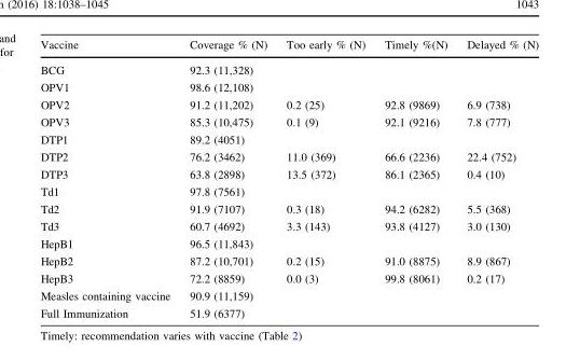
<table><thead><tr><td>Vaccine</td><td>Coverage % (N)</td><td>Too early % (N)</td><td>Timely %(N)</td><td>Delayed % (N)</td></tr></thead><tbody><tr><td>BCG</td><td>92.3 (11,328)</td><td></td><td></td><td></td></tr><tr><td>OPV1</td><td>98.6 (12,108)</td><td></td><td></td><td></td></tr><tr><td>OPV2</td><td>91.2 (11,202)</td><td>0.2 (25)</td><td>92.8 (9869)</td><td>6.9 (738)</td></tr><tr><td>OPV3</td><td>85.3 (10,475)</td><td>0.1 (9)</td><td>92.1 (9216)</td><td>7.8 (777)</td></tr><tr><td>DTP1</td><td>89.2 (4051)</td><td></td><td></td><td></td></tr><tr><td>DTP2</td><td>76.2 (3462)</td><td>11.0 (369)</td><td>66.6 (2236)</td><td>22.4 (752)</td></tr><tr><td>DTP3</td><td>63.8 (2898)</td><td>13.5 (372)</td><td>86.1 (2365)</td><td>0.4 (10)</td></tr><tr><td>Td1</td><td>97.8 (7561)</td><td></td><td></td><td></td></tr><tr><td>Td2</td><td>91.9 (7107)</td><td>0.3 (18)</td><td>94.2 (6282)</td><td>5.5 (368)</td></tr><tr><td>Td3</td><td>60.7 (4692)</td><td>3.3 (143)</td><td>93.8 (4127)</td><td>3.0 (130)</td></tr><tr><td>HepB1</td><td>96.5 (11,843)</td><td></td><td></td><td></td></tr><tr><td>HepB2</td><td>87.2 (10,701)</td><td>0.2 (15)</td><td>91.0 (8875)</td><td>8.9 (867)</td></tr><tr><td>HepB3</td><td>72.2 (8859)</td><td>0.0 (3)</td><td>99.8 (8061)</td><td>0.2 (17)</td></tr><tr><td>Measles containing vaccine</td><td>90.9 (11,159)</td><td></td><td></td><td></td></tr><tr><td>Full Immunization</td><td>51.9 (6377)</td><td></td><td></td><td></td></tr></tbody></table>